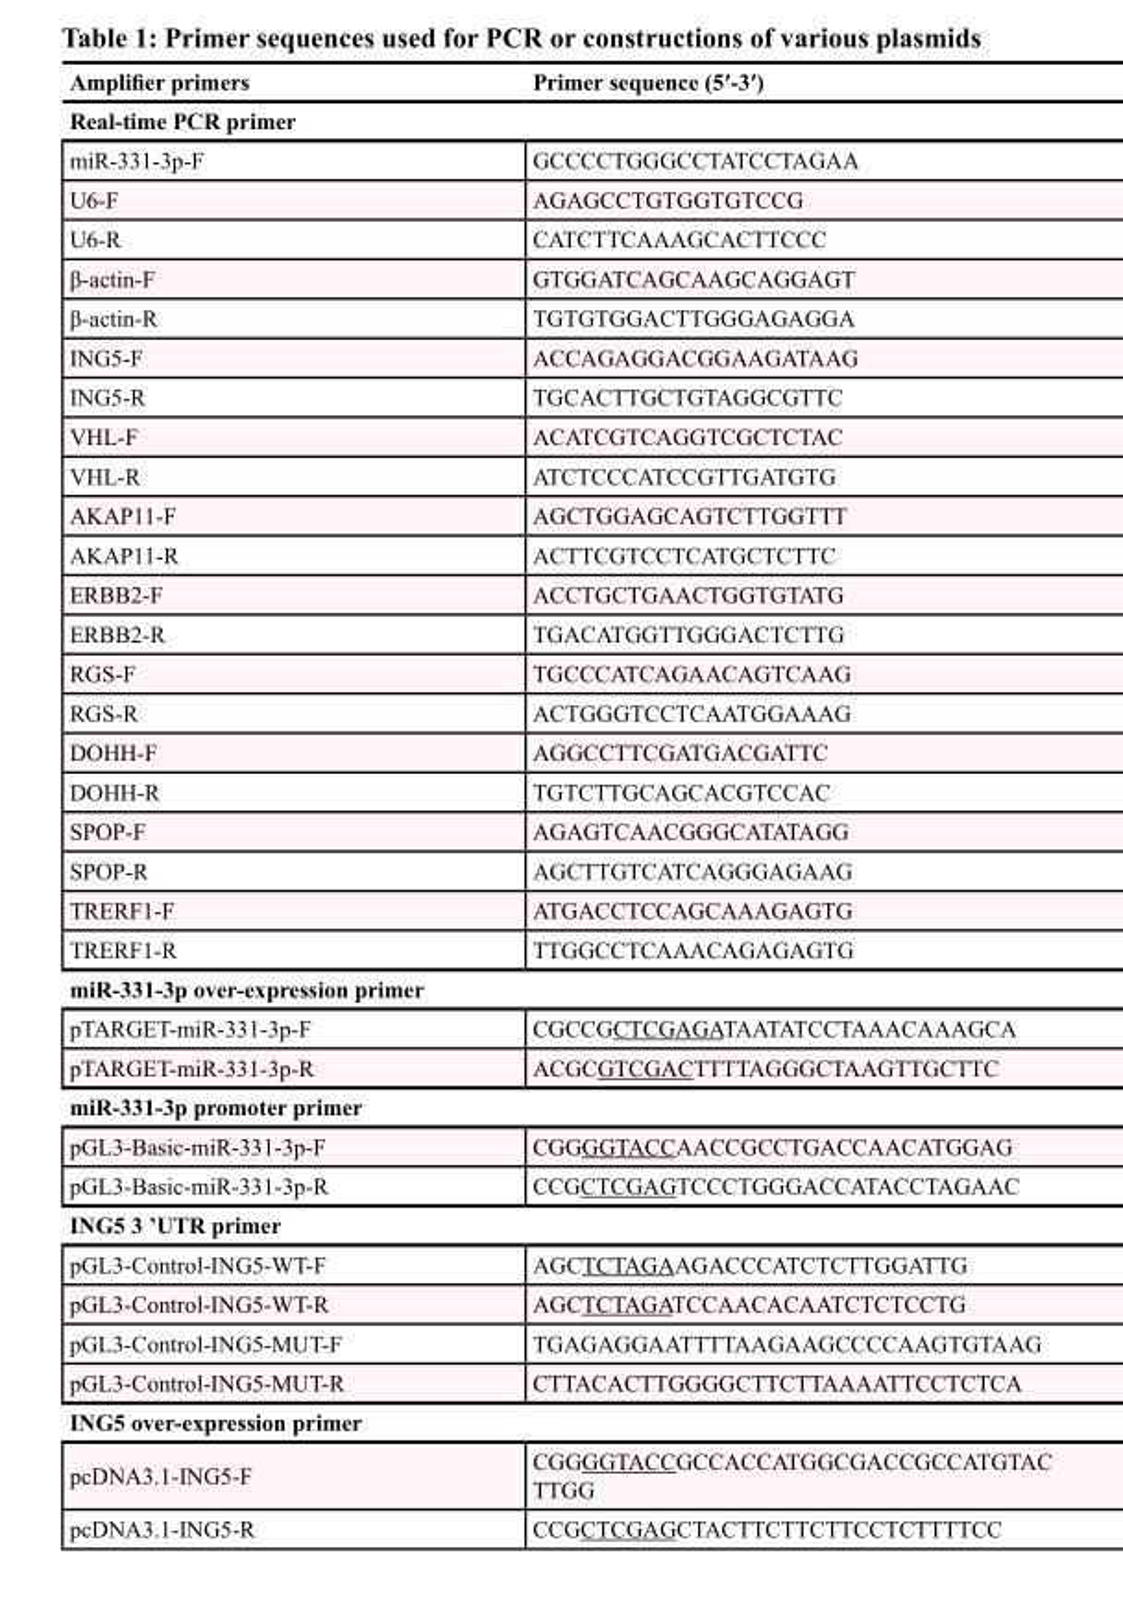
<table><thead><tr><td>Amplifier primers</td><td>Primer sequence (5′-3′)</td></tr></thead><tbody><tr><td colspan="2">Real-time PCR primer</td></tr><tr><td>miR-331-3p-F</td><td>GCCCCTGGGCCTATCCTAGAA</td></tr><tr><td>U6-F</td><td>AGAGCCTGTGGTGTCCG</td></tr><tr><td>U6-R</td><td>CATCTTCAAAGCACTTCCC</td></tr><tr><td>β-actin-F</td><td>GTGGATCAGCAAGCAGGAGT</td></tr><tr><td>β-actin-R</td><td>TGTGTGGACTTGGGAGAGGA</td></tr><tr><td>ING5-F</td><td>ACCAGAGGACGGAAGATAAG</td></tr><tr><td>ING5-R</td><td>TGCACTTGCTGTAGGCGTTC</td></tr><tr><td>VHL-F</td><td>ACATCGTCAGGTCGCTCTAC</td></tr><tr><td>VHL-R</td><td>ATCTCCCATCCGTTGATGTG</td></tr><tr><td>AKAP11-F</td><td>AGCTGGAGCAGTCTTGGTTT</td></tr><tr><td>AKAP11-R</td><td>ACTTCGTCCTCATGCTCTTC</td></tr><tr><td>ERBB2-F</td><td>ACCTGCTGAACTGGTGTATG</td></tr><tr><td>ERBB2-R</td><td>TGACATGGTTGGGACTCTTG</td></tr><tr><td>RGS-F</td><td>TGCCCATCAGAACAGTCAAG</td></tr><tr><td>RGS-R</td><td>ACTGGGTCCTCAATGGAAAG</td></tr><tr><td>DOHH-F</td><td>AGGCCTTCGATGACGATTC</td></tr><tr><td>DOHH-R</td><td>TGTCTTGCAGCACGTCCAC</td></tr><tr><td>SPOP-F</td><td>AGAGTCAACGGGCATATAGG</td></tr><tr><td>SPOP-R</td><td>AGCTTGTCATCAGGGAGAAG</td></tr><tr><td>TRERF1-F</td><td>ATGACCTCCAGCAAAGAGTG</td></tr><tr><td>TRERF1-R</td><td>TTGGCCTCAAACAGAGAGTG</td></tr><tr><td colspan="2">miR-331-3p over-expression primer</td></tr><tr><td>pTARGET-miR-331-3p-F</td><td>CGCCGCTCGAGATAATATCCTAAACAAAGCA</td></tr><tr><td>pTARGET-miR-331-3p-R</td><td>ACGCGTCGACTTTTAGGGCTAAGTTGCTTC</td></tr><tr><td colspan="2">miR-331-3p promoter primer</td></tr><tr><td>pGL3-Basic-miR-331-3p-F</td><td>CGGGGTACCAACCGCCTGACCAACATGGAG</td></tr><tr><td>pGL3-Basic-miR-331-3p-R</td><td>CCGCTCGAGTCCCTGGGACCATACCTAGAAC</td></tr><tr><td colspan="2">ING5 3 ’UTR primer</td></tr><tr><td>pGL3-Control-ING5-WT-F</td><td>AGCTCTAGAAGACCCATCTCTTGGATTG</td></tr><tr><td>pGL3-Control-ING5-WT-R</td><td>AGCTCTAGATCCAACACAATCTCTCCTG</td></tr><tr><td>pGL3-Control-ING5-MUT-F</td><td>TGAGAGGAATTTTAAGAAGCCCCAAGTGTAAG</td></tr><tr><td>pGL3-Control-ING5-MUT-R</td><td>CTTACACTTGGGGCTTCTTAAAATTCCTCTCA</td></tr><tr><td colspan="2">ING5 over-expression primer</td></tr><tr><td>pcDNA3.1-ING5-F</td><td>CGGGGTACCGCCACCATGGCGACCGCCATGTAC TTGG</td></tr><tr><td>pcDNA3.1-ING5-R</td><td>CCGCTCGAGCTACTTCTTCTTCCTCTTTTCC</td></tr></tbody></table>